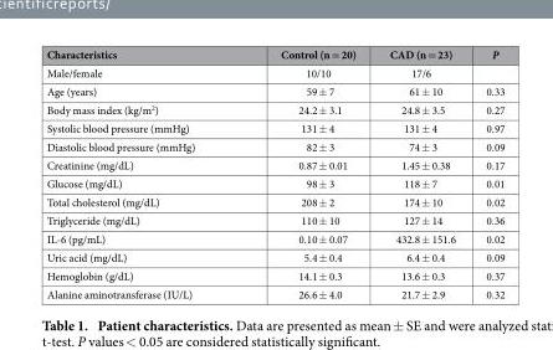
<table><thead><tr><td>Characteristics</td><td>Control (n = 20)</td><td>CAD (n = 23)</td><td>P</td></tr></thead><tbody><tr><td>Male/female</td><td>10/10</td><td>17/6</td><td></td></tr><tr><td>Age (years)</td><td>59 ± 7</td><td>61 ± 10</td><td>0.33</td></tr><tr><td>Body mass index (kg/m<sup>2</sup>)</td><td>24.2 ± 3.1</td><td>24.8 ± 3.5</td><td>0.27</td></tr><tr><td>Systolic blood pressure (mmHg)</td><td>131 ± 4</td><td>131 ± 4</td><td>0.97</td></tr><tr><td>Diastolic blood pressure (mmHg)</td><td>82 ± 3</td><td>74 ± 3</td><td>0.09</td></tr><tr><td>Creatinine (mg/dL)</td><td>0.87 ± 0.01</td><td>1.45 ± 0.38</td><td>0.17</td></tr><tr><td>Glucose (mg/dL)</td><td>98 ± 3</td><td>118 ± 7</td><td>0.01</td></tr><tr><td>Total cholesterol (mg/dL)</td><td>208 ± 2</td><td>174 ± 10</td><td>0.02</td></tr><tr><td>Triglyceride (mg/dL)</td><td>110 ± 10</td><td>127 ± 14</td><td>0.36</td></tr><tr><td>IL-6 (pg/mL)</td><td>0.10 ± 0.07</td><td>432.8 ± 151.6</td><td>0.02</td></tr><tr><td>Uric acid (mg/dL)</td><td>5.4 ± 0.4</td><td>6.4 ± 0.4</td><td>0.09</td></tr><tr><td>Hemoglobin (g/dL)</td><td>14.1 ± 0.3</td><td>13.6 ± 0.3</td><td>0.37</td></tr><tr><td>Alanine aminotransferase (IU/L)</td><td>26.6 ± 4.0</td><td>21.7 ± 2.9</td><td>0.32</td></tr></tbody></table>